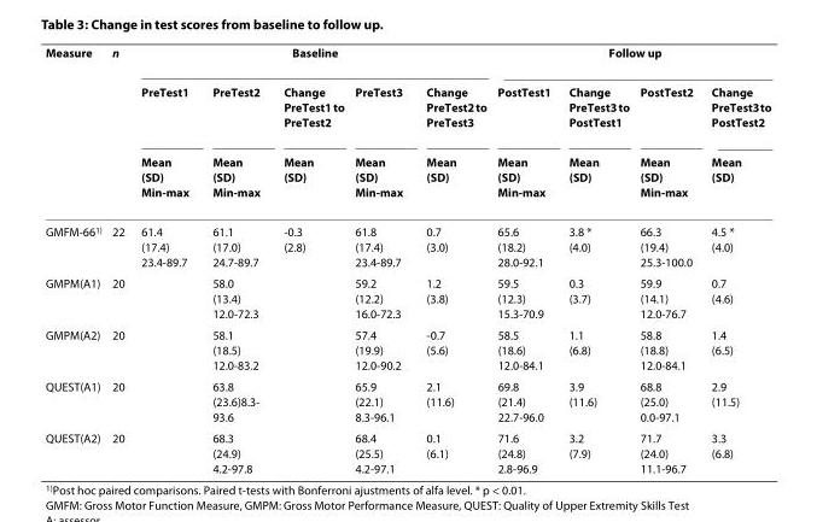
<table><thead><tr><td rowspan="3">Measure</td><td rowspan="3">n</td><td colspan="5">Baseline</td><td colspan="4">Follow up</td></tr><tr><td rowspan="2">PreTest1 Mean (SD) Min-max</td><td rowspan="2">PreTest2 Mean (SD) Min-max</td><td rowspan="2">Change PreTest1 to PreTest2 Mean (SD)</td><td rowspan="2">PreTest3 Mean (SD) Min-max</td><td rowspan="2">Change PreTest2 to PreTest3 Mean (SD)</td><td rowspan="2">PostTest1 Mean (SD) Min-max</td><td rowspan="2">Change PreTest3 to PostTest1 Mean (SD)</td><td rowspan="2">PostTest2 Mean (SD) Min-max</td><td rowspan="2">Change PreTest3 to PostTest2 Mean (SD)</td></tr><tr></tr></thead><tbody><tr><td>GMFM-66<sup>1)</sup></td><td>22</td><td>61.4 (17.4) 23.4-89.7</td><td>61.1 (17.0) 24.7-89.7</td><td>-0.3 (2.8)</td><td>61.8 (17.4) 23.4-89.7</td><td>0.7 (3.0)</td><td>65.6 (18.2) 28.0-92.1</td><td>3.8 * (4.0)</td><td>66.3 (19.4) 25.3-100.0</td><td>4.5 * (4.0)</td></tr><tr><td>GMPM(A1)</td><td>20</td><td></td><td>58.0 (13.4) 12.0-72.3</td><td></td><td>59.2 (12.2) 16.0-72.3</td><td>1.2 (3.8)</td><td>59.5 (12.3) 15.3-70.9</td><td>0.3 (3.7)</td><td>59.9 (14.1) 12.0-76.7</td><td>0.7 (4.6)</td></tr><tr><td>GMPM(A2)</td><td>20</td><td></td><td>58.1 (18.5) 12.0-83.2</td><td></td><td>57.4 (19.9) 12.0-90.2</td><td>-0.7 (5.6)</td><td>58.5 (18.6) 12.0-84.1</td><td>1.1 (6.8)</td><td>58.8 (18.8) 12.0-84.1</td><td>1.4 (6.5)</td></tr><tr><td>QUEST(A1)</td><td>20</td><td></td><td>63.8 (23.6)8.3- 93.6</td><td></td><td>65.9 (22.1) 8.3-96.1</td><td>2.1 (11.6)</td><td>69.8 (21.4) 22.7-96.0</td><td>3.9 (11.6)</td><td>68.8 (25.0) 0.0-97.1</td><td>2.9 (11.5)</td></tr><tr><td>QUEST(A2)</td><td>20</td><td></td><td>68.3 (24.9) 4.2-97.8</td><td></td><td>68.4 (25.5) 4.2-97.1</td><td>0.1 (6.1)</td><td>71.6 (24.8) 2.8-96.9</td><td>3.2 (7.9)</td><td>71.7 (24.0) 11.1-96.7</td><td>3.3 (6.8)</td></tr></tbody></table>